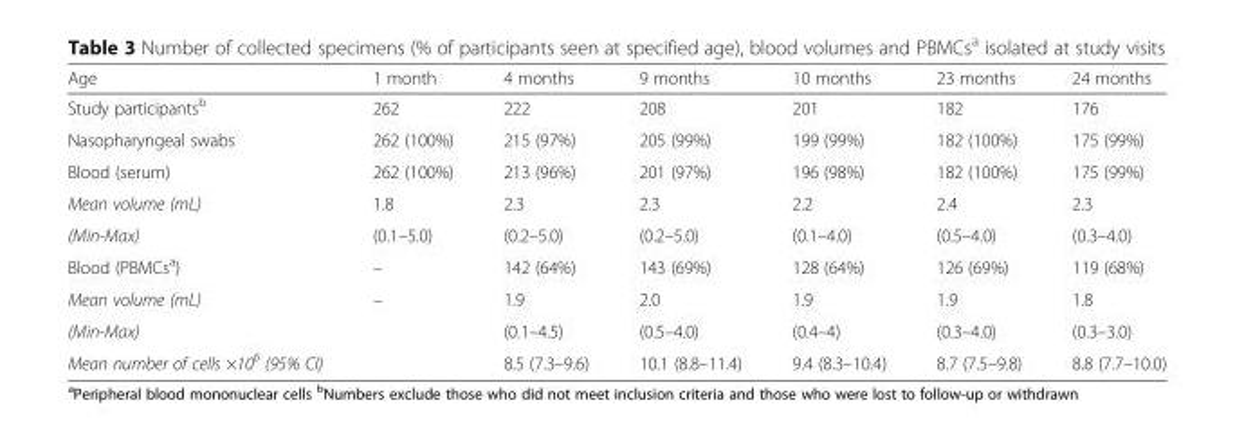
<table><thead><tr><td>Age</td><td>1 month</td><td>4 months</td><td>9 months</td><td>10 months</td><td>23 months</td><td>24 months</td></tr></thead><tbody><tr><td>Study participants<sup>b</sup></td><td>262</td><td>222</td><td>208</td><td>201</td><td>182</td><td>176</td></tr><tr><td>Nasopharyngeal swabs</td><td>262 (100%)</td><td>215 (97%)</td><td>205 (99%)</td><td>199 (99%)</td><td>182 (100%)</td><td>175 (99%)</td></tr><tr><td>Blood (serum)</td><td>262 (100%)</td><td>213 (96%)</td><td>201 (97%)</td><td>196 (98%)</td><td>182 (100%)</td><td>175 (99%)</td></tr><tr><td>Mean volume (mL)</td><td>1.8</td><td>2.3</td><td>2.3</td><td>2.2</td><td>2.4</td><td>2.3</td></tr><tr><td>(Min-Max)</td><td>(0.1–5.0)</td><td>(0.2–5.0)</td><td>(0.2–5.0)</td><td>(0.1–4.0)</td><td>(0.5–4.0)</td><td>(0.3–4.0)</td></tr><tr><td>Blood (PBMCs<sup>a</sup>)</td><td>–</td><td>142 (64%)</td><td>143 (69%)</td><td>128 (64%)</td><td>126 (69%)</td><td>119 (68%)</td></tr><tr><td>Mean volume (mL)</td><td>–</td><td>1.9</td><td>2.0</td><td>1.9</td><td>1.9</td><td>1.8</td></tr><tr><td>(Min-Max)</td><td></td><td>(0.1–4.5)</td><td>(0.5–4.0)</td><td>(0.4–4)</td><td>(0.3–4.0)</td><td>(0.3–3.0)</td></tr><tr><td>Mean number of cells ×10<sup>6</sup> (95% CI)</td><td></td><td>8.5 (7.3–9.6)</td><td>10.1 (8.8–11.4)</td><td>9.4 (8.3–10.4)</td><td>8.7 (7.5–9.8)</td><td>8.8 (7.7–10.0)</td></tr></tbody></table>